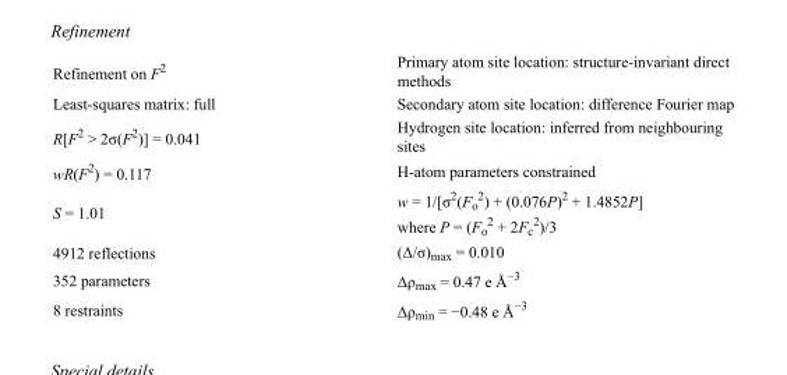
<table><tbody><tr><td>Refinement on F2</td><td>Primary atom site location: structure-invariant direct methods</td></tr><tr><td>Least-squares matrix: full</td><td>Secondary atom site location: difference Fourier map</td></tr><tr><td>R[F2 &gt; 2σ(F2)] = 0.041</td><td>Hydrogen site location: inferred from neighbouring sites</td></tr><tr><td>wR(F2) = 0.117</td><td>H-atom parameters constrained</td></tr><tr><td>S = 1.01</td><td>w = 1/[σ2(Fo 2) + (0.076P)2 + 1.4852P] where P = (Fo 2 + 2Fc 2)/3</td></tr><tr><td>4912 reflections</td><td>(Δ/σ)max = 0.010</td></tr><tr><td>352 parameters</td><td>Δρmax = 0.47 e Å−3</td></tr><tr><td>8 restraints</td><td>Δρmin = −0.48 e Å−3</td></tr></tbody></table>